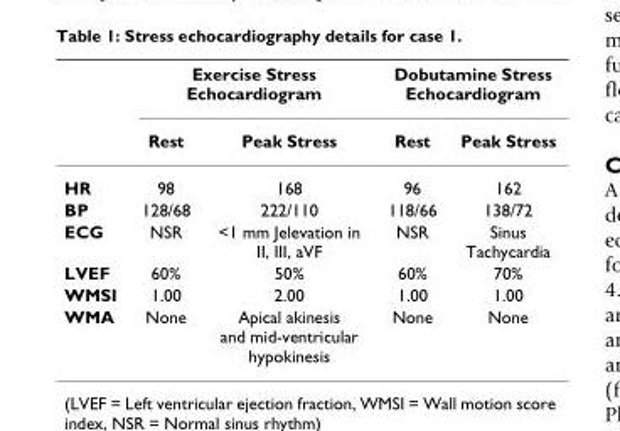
<table><thead><tr><td rowspan="2"></td><td colspan="2">Exercise Stress Echocardiogram</td><td colspan="2">Dobutamine Stress Echocardiogram</td></tr><tr><td>Rest</td><td>Peak Stress</td><td>Rest</td><td>Peak Stress</td></tr></thead><tbody><tr><td>HR</td><td>98</td><td>168</td><td>96</td><td>162</td></tr><tr><td>BP</td><td>128/68</td><td>222/110</td><td>118/66</td><td>138/72</td></tr><tr><td>ECG</td><td>NSR</td><td>&lt;1 mm Jelevation in II, III, aVF</td><td>NSR</td><td>Sinus Tachycardia</td></tr><tr><td>LVEF</td><td>60%</td><td>50%</td><td>60%</td><td>70%</td></tr><tr><td>WMSI</td><td>1.00</td><td>2.00</td><td>1.00</td><td>1.00</td></tr><tr><td>WMA</td><td>None</td><td>Apical akinesis and mid-ventricular hypokinesis</td><td>None</td><td>None</td></tr></tbody></table>